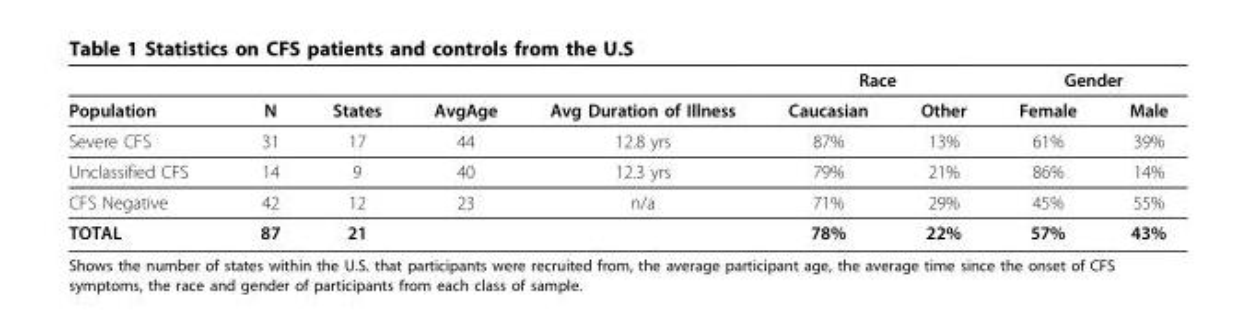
<table><thead><tr><td rowspan="2">Population</td><td rowspan="2">N</td><td rowspan="2">States</td><td rowspan="2">AvgAge</td><td rowspan="2">Avg Duration of Illness</td><td colspan="2">Race</td><td colspan="2">Gender</td></tr><tr><td>Caucasian</td><td>Other</td><td>Female</td><td>Male</td></tr></thead><tbody><tr><td>Severe CFS</td><td>31</td><td>17</td><td>44</td><td>12.8 yrs</td><td>87%</td><td>13%</td><td>61%</td><td>39%</td></tr><tr><td>Unclassified CFS</td><td>14</td><td>9</td><td>40</td><td>12.3 yrs</td><td>79%</td><td>21%</td><td>86%</td><td>14%</td></tr><tr><td>CFS Negative</td><td>42</td><td>12</td><td>23</td><td>n/a</td><td>71%</td><td>29%</td><td>45%</td><td>55%</td></tr><tr><td>TOTAL</td><td>87</td><td>21</td><td></td><td></td><td>78%</td><td>22%</td><td>57%</td><td>43%</td></tr></tbody></table>